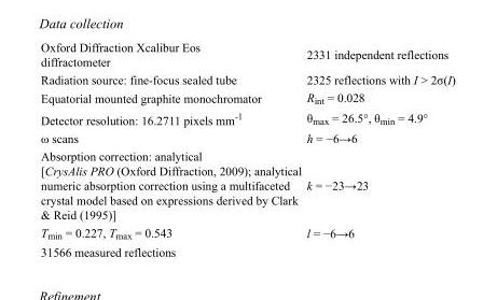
<table><tbody><tr><td>Oxford Diffraction Xcalibur Eos diffractometer</td><td>2331 independent reflections</td></tr><tr><td>Radiation source: fine-focus sealed tube</td><td>2325 reflections with I &gt; 2σ(I)</td></tr><tr><td>Equatorial mounted graphite monochromator</td><td>R<sub>int</sub> = 0.028</td></tr><tr><td>Detector resolution: 16.2711 pixels mm<sup>-1</sup></td><td>θ<sub>max</sub> = 26.5°, θ<sub>min</sub> = 4.9°</td></tr><tr><td>ω scans</td><td>h = −6→6</td></tr><tr><td>Absorption correction: analytical [CrysAlis PRO (Oxford Diffraction, 2009); analytical numeric absorption correction using a multifaceted crystal model based on expressions derived by Clark &amp; Reid (1995)]</td><td>k = −23→23</td></tr><tr><td>T<sub>min</sub> = 0.227, T<sub>max</sub> = 0.543</td><td>l = −6→6</td></tr><tr><td>31566 measured reflections</td><td></td></tr></tbody></table>